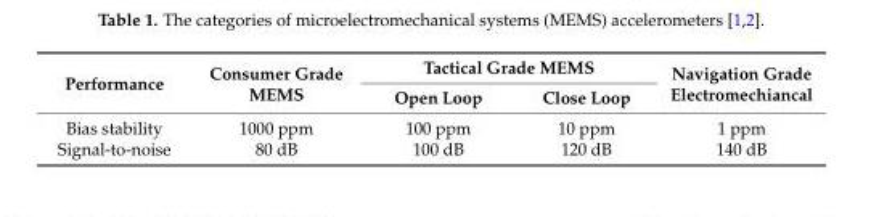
<table><thead><tr><td rowspan="2">Performance</td><td rowspan="2">Consumer Grade MEMS</td><td colspan="2">Tactical Grade MEMS</td><td rowspan="2">Navigation Grade Electromechiancal</td></tr><tr><td>Open Loop</td><td>Close Loop</td></tr></thead><tbody><tr><td>Bias stability</td><td>1000 ppm</td><td>100 ppm</td><td>10 ppm</td><td>1 ppm</td></tr><tr><td>Signal-to-noise</td><td>80 dB</td><td>100 dB</td><td>120 dB</td><td>140 dB</td></tr></tbody></table>